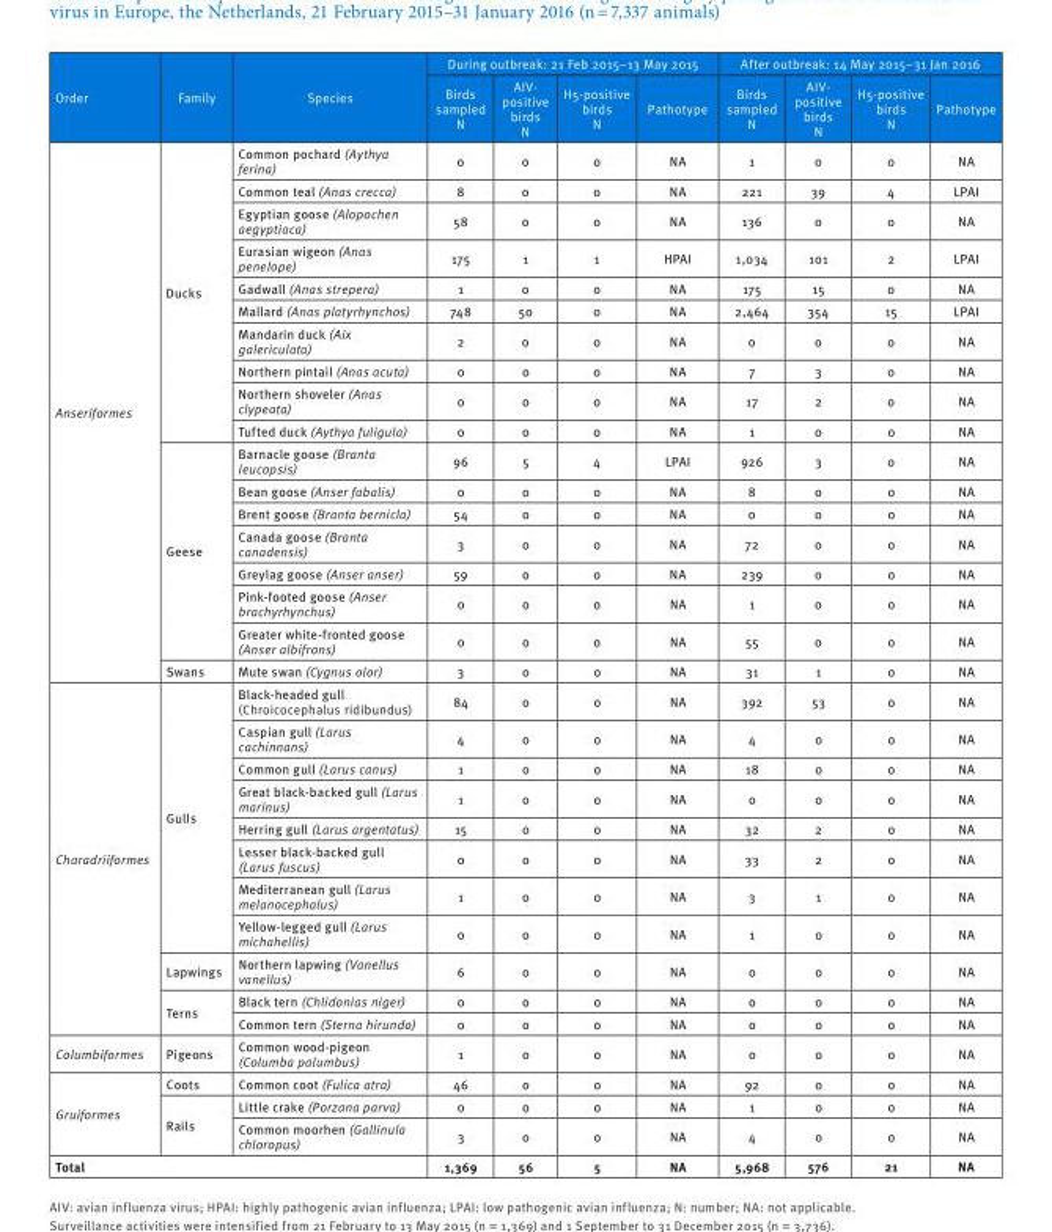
<table><thead><tr><td rowspan="2">Order</td><td rowspan="2">Family</td><td rowspan="2">Species</td><td colspan="4">During outbreak: 21 Feb 2015–13 May 2015</td><td colspan="4">After outbreak: 14 May 2015–31 Jan 2016</td></tr><tr><td>Birds sampled N</td><td>AIV- positive birds N</td><td>H5-positive birds N</td><td>Pathotype</td><td>Birds sampled N</td><td>AIV- positive birds N</td><td>H5-positive birds N</td><td>Pathotype</td></tr></thead><tbody><tr><td rowspan="18">Anseriformes</td><td rowspan="10">Ducks</td><td>Common pochard (Aythya ferina)</td><td>0</td><td>0</td><td>0</td><td>NA</td><td>1</td><td>0</td><td>0</td><td>NA</td></tr><tr><td>Common teal (Anas crecca)</td><td>8</td><td>0</td><td>0</td><td>NA</td><td>221</td><td>39</td><td>4</td><td>LPAI</td></tr><tr><td>Egyptian goose (Alopochen aegyptiaca)</td><td>58</td><td>0</td><td>0</td><td>NA</td><td>136</td><td>0</td><td>0</td><td>NA</td></tr><tr><td>Eurasian wigeon (Anas penelope)</td><td>175</td><td>1</td><td>1</td><td>HPAI</td><td>1,034</td><td>101</td><td>2</td><td>LPAI</td></tr><tr><td>Gadwall (Anas strepera)</td><td>1</td><td>0</td><td>0</td><td>NA</td><td>175</td><td>15</td><td>0</td><td>NA</td></tr><tr><td>Mallard (Anas platyrhynchos)</td><td>748</td><td>50</td><td>0</td><td>NA</td><td>2,464</td><td>354</td><td>15</td><td>LPAI</td></tr><tr><td>Mandarin duck (Aix galericulata)</td><td>2</td><td>0</td><td>0</td><td>NA</td><td>0</td><td>0</td><td>0</td><td>NA</td></tr><tr><td>Northern pintail (Anas acuta)</td><td>0</td><td>0</td><td>0</td><td>NA</td><td>7</td><td>3</td><td>0</td><td>NA</td></tr><tr><td>Northern shoveler (Anas clypeata)</td><td>0</td><td>0</td><td>0</td><td>NA</td><td>17</td><td>2</td><td>0</td><td>NA</td></tr><tr><td>Tufted duck (Aythya fuligula)</td><td>0</td><td>0</td><td>0</td><td>NA</td><td>1</td><td>0</td><td>0</td><td>NA</td></tr><tr><td rowspan="7">Geese</td><td>Barnacle goose (Branta leucopsis)</td><td>96</td><td>5</td><td>4</td><td>LPAI</td><td>926</td><td>3</td><td>0</td><td>NA</td></tr><tr><td>Bean goose (Anser fabalis)</td><td>0</td><td>0</td><td>0</td><td>NA</td><td>8</td><td>0</td><td>0</td><td>NA</td></tr><tr><td>Brent goose (Branta bernicla)</td><td>54</td><td>0</td><td>0</td><td>NA</td><td>0</td><td>0</td><td>0</td><td>NA</td></tr><tr><td>Canada goose (Branta canadensis)</td><td>3</td><td>0</td><td>0</td><td>NA</td><td>72</td><td>0</td><td>0</td><td>NA</td></tr><tr><td>Greylag goose (Anser anser)</td><td>59</td><td>0</td><td>0</td><td>NA</td><td>239</td><td>0</td><td>0</td><td>NA</td></tr><tr><td>Pink-footed goose (Anser brachyrhynchus)</td><td>0</td><td>0</td><td>0</td><td>NA</td><td>1</td><td>0</td><td>0</td><td>NA</td></tr><tr><td>Greater white-fronted goose (Anser albifrons)</td><td>0</td><td>0</td><td>0</td><td>NA</td><td>55</td><td>0</td><td>0</td><td>NA</td></tr><tr><td>Swans</td><td>Mute swan (Cygnus olor)</td><td>3</td><td>0</td><td>0</td><td>NA</td><td>31</td><td>1</td><td>0</td><td>NA</td></tr><tr><td rowspan="11">Charadriiformes</td><td rowspan="8">Gulls</td><td>Black-headed gull (Chroicocephalus ridibundus)</td><td>84</td><td>0</td><td>0</td><td>NA</td><td>392</td><td>53</td><td>0</td><td>NA</td></tr><tr><td>Caspian gull (Larus cachinnans)</td><td>4</td><td>0</td><td>0</td><td>NA</td><td>4</td><td>0</td><td>0</td><td>NA</td></tr><tr><td>Common gull (Larus canus)</td><td>1</td><td>0</td><td>0</td><td>NA</td><td>18</td><td>0</td><td>0</td><td>NA</td></tr><tr><td>Great black-backed gull (Larus marinus)</td><td>1</td><td>0</td><td>0</td><td>NA</td><td>0</td><td>0</td><td>0</td><td>NA</td></tr><tr><td>Herring gull (Larus argentatus)</td><td>15</td><td>0</td><td>0</td><td>NA</td><td>32</td><td>2</td><td>0</td><td>NA</td></tr><tr><td>Lesser black-backed gull (Larus fuscus)</td><td>0</td><td>0</td><td>0</td><td>NA</td><td>33</td><td>2</td><td>0</td><td>NA</td></tr><tr><td>Mediterranean gull (Larus melanocephalus)</td><td>1</td><td>0</td><td>0</td><td>NA</td><td>3</td><td>1</td><td>0</td><td>NA</td></tr><tr><td>Yellow-legged gull (Larus michahellis)</td><td>0</td><td>0</td><td>0</td><td>NA</td><td>1</td><td>0</td><td>0</td><td>NA</td></tr><tr><td>Lapwings</td><td>Northern lapwing (Vanellus vanellus)</td><td>6</td><td>0</td><td>0</td><td>NA</td><td>0</td><td>0</td><td>0</td><td>NA</td></tr><tr><td rowspan="2">Terns</td><td>Black tern (Chlidonias niger)</td><td>0</td><td>0</td><td>0</td><td>NA</td><td>0</td><td>0</td><td>0</td><td>NA</td></tr><tr><td>Common tern (Sterna hirundo)</td><td>0</td><td>0</td><td>0</td><td>NA</td><td>0</td><td>0</td><td>0</td><td>NA</td></tr><tr><td>Columbiformes</td><td>Pigeons</td><td>Common wood-pigeon (Columba palumbus)</td><td>1</td><td>0</td><td>0</td><td>NA</td><td>0</td><td>0</td><td>0</td><td>NA</td></tr><tr><td rowspan="3">Gruiformes</td><td>Coots</td><td>Common coot (Fulica atra)</td><td>46</td><td>0</td><td>0</td><td>NA</td><td>92</td><td>0</td><td>0</td><td>NA</td></tr><tr><td rowspan="2">Rails</td><td>Little crake (Porzana parva)</td><td>0</td><td>0</td><td>0</td><td>NA</td><td>1</td><td>0</td><td>0</td><td>NA</td></tr><tr><td>Common moorhen (Gallinula chloropus)</td><td>3</td><td>0</td><td>0</td><td>NA</td><td>4</td><td>0</td><td>0</td><td>NA</td></tr><tr><td colspan="3">Total</td><td>1,369</td><td>56</td><td>5</td><td>NA</td><td>5,968</td><td>576</td><td>21</td><td>NA</td></tr></tbody></table>